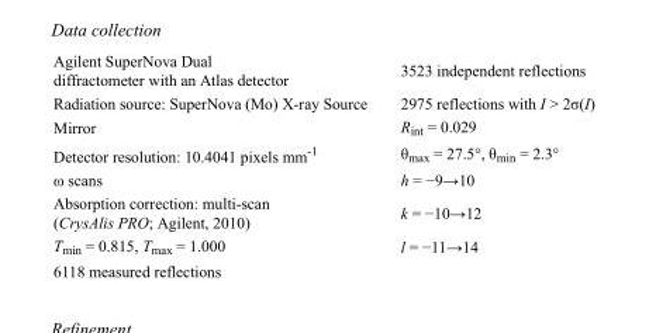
<table><tbody><tr><td>Agilent SuperNova Dual diffractometer with an Atlas detector</td><td>3523 independent reflections</td></tr><tr><td>Radiation source: SuperNova (Mo) X-ray Source</td><td>2975 reflections with I &gt; 2σ(I)</td></tr><tr><td>Mirror</td><td>R<sub>int</sub> = 0.029</td></tr><tr><td>Detector resolution: 10.4041 pixels mm<sup>-1</sup></td><td>θ<sub>max</sub> = 27.5°, θ<sub>min</sub> = 2.3°</td></tr><tr><td>ω scans</td><td>h = −9→10</td></tr><tr><td>Absorption correction: multi-scan (CrysAlis PRO; Agilent, 2010)</td><td>k = −10→12</td></tr><tr><td>T<sub>min</sub> = 0.815, T<sub>max</sub> = 1.000</td><td>l = −11→14</td></tr><tr><td>6118 measured reflections</td><td></td></tr></tbody></table>